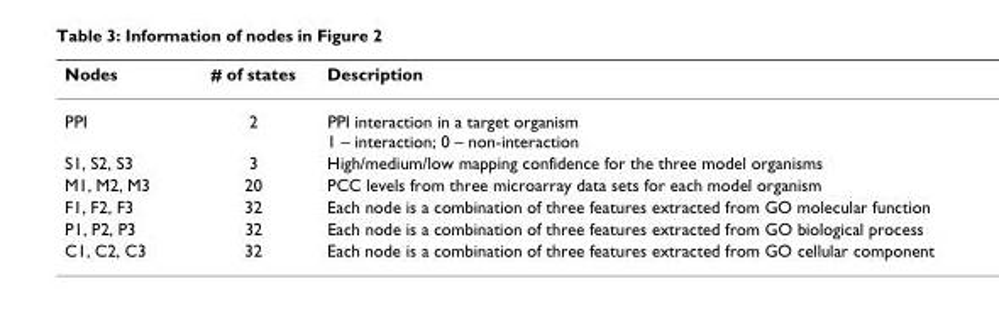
<table><thead><tr><td>Nodes</td><td># of states</td><td>Description</td></tr></thead><tbody><tr><td>PPI</td><td>2</td><td>PPI interaction in a target organism 1 – interaction; 0 – non-interaction</td></tr><tr><td>S1, S2, S3</td><td>3</td><td>High/medium/low mapping confidence for the three model organisms</td></tr><tr><td>M1, M2, M3</td><td>20</td><td>PCC levels from three microarray data sets for each model organism</td></tr><tr><td>F1, F2, F3</td><td>32</td><td>Each node is a combination of three features extracted from GO molecular function</td></tr><tr><td>P1, P2, P3</td><td>32</td><td>Each node is a combination of three features extracted from GO biological process</td></tr><tr><td>C1, C2, C3</td><td>32</td><td>Each node is a combination of three features extracted from GO cellular component</td></tr></tbody></table>